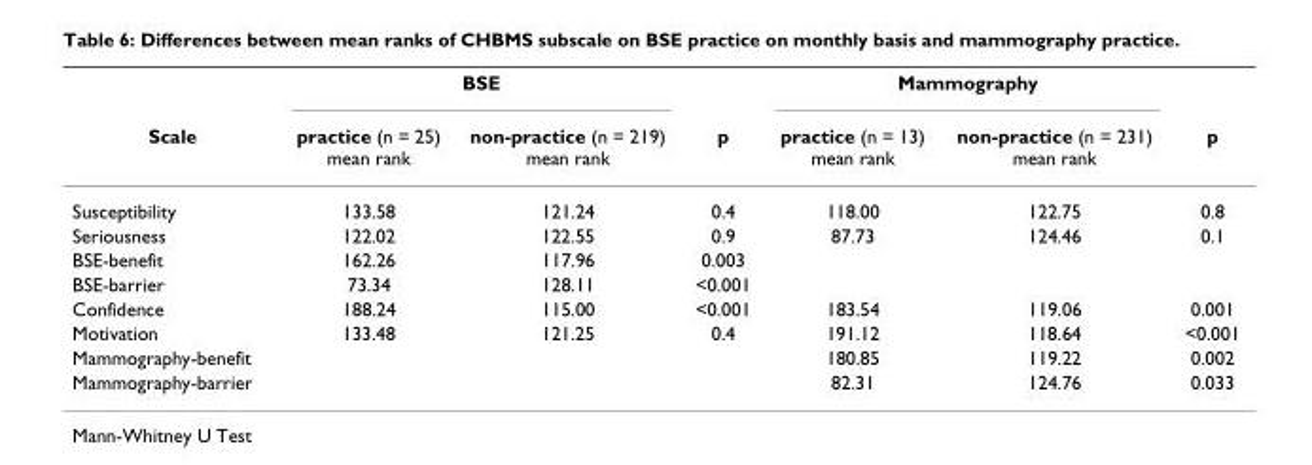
<table><thead><tr><td rowspan="2">Scale</td><td colspan="2">BSE</td><td rowspan="2">p</td><td colspan="2">Mammography</td><td rowspan="2">p</td></tr><tr><td>practice (n = 25) mean rank</td><td>non-practice (n = 219) mean rank</td><td>practice (n = 13) mean rank</td><td>non-practice (n = 231) mean rank</td></tr></thead><tbody><tr><td>Susceptibility</td><td>133.58</td><td>121.24</td><td>0.4</td><td>118.00</td><td>122.75</td><td>0.8</td></tr><tr><td>Seriousness</td><td>122.02</td><td>122.55</td><td>0.9</td><td>87.73</td><td>124.46</td><td>0.1</td></tr><tr><td>BSE-benefit</td><td>162.26</td><td>117.96</td><td>0.003</td><td></td><td></td><td></td></tr><tr><td>BSE-barrier</td><td>73.34</td><td>128.11</td><td>&lt;0.001</td><td></td><td></td><td></td></tr><tr><td>Confidence</td><td>188.24</td><td>115.00</td><td>&lt;0.001</td><td>183.54</td><td>119.06</td><td>0.001</td></tr><tr><td>Motivation</td><td>133.48</td><td>121.25</td><td>0.4</td><td>191.12</td><td>118.64</td><td>&lt;0.001</td></tr><tr><td>Mammography-benefit</td><td></td><td></td><td></td><td>180.85</td><td>119.22</td><td>0.002</td></tr><tr><td>Mammography-barrier</td><td></td><td></td><td></td><td>82.31</td><td>124.76</td><td>0.033</td></tr></tbody></table>